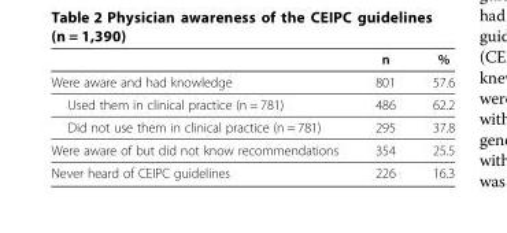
<table><thead><tr><td></td><td>n</td><td>%</td></tr></thead><tbody><tr><td>Were aware and had knowledge</td><td>801</td><td>57.6</td></tr><tr><td>Used them in clinical practice (n = 781)</td><td>486</td><td>62.2</td></tr><tr><td>Did not use them in clinical practice (n = 781)</td><td>295</td><td>37.8</td></tr><tr><td>Were aware of but did not know recommendations</td><td>354</td><td>25.5</td></tr><tr><td>Never heard of CEIPC guidelines</td><td>226</td><td>16.3</td></tr></tbody></table>